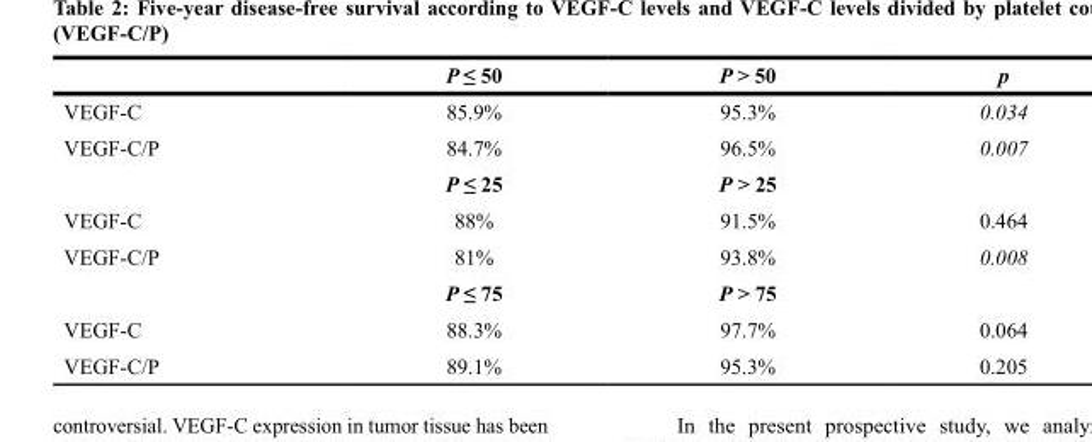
<table><thead><tr><td></td><td>P ≤ 50</td><td>P &gt; 50</td><td>p</td></tr></thead><tbody><tr><td>VEGF-C</td><td>85.9%</td><td>95.3%</td><td>0.034</td></tr><tr><td rowspan="2">VEGF-C/P</td><td>84.7%</td><td>96.5%</td><td>0.007</td></tr><tr><td>P ≤ 25</td><td>P &gt; 25</td><td></td></tr><tr><td>VEGF-C</td><td>88%</td><td>91.5%</td><td>0.464</td></tr><tr><td rowspan="2">VEGF-C/P</td><td>81%</td><td>93.8%</td><td>0.008</td></tr><tr><td>P ≤ 75</td><td>P &gt; 75</td><td></td></tr><tr><td>VEGF-C</td><td>88.3%</td><td>97.7%</td><td>0.064</td></tr><tr><td>VEGF-C/P</td><td>89.1%</td><td>95.3%</td><td>0.205</td></tr></tbody></table>